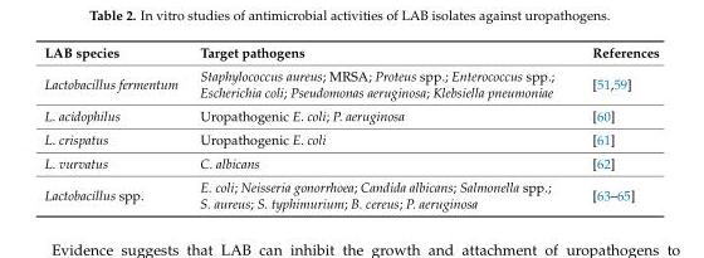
<table><thead><tr><td>LAB species</td><td>Target pathogens</td><td>References</td></tr></thead><tbody><tr><td>Lactobacillus fermentum</td><td>Staphylococcus aureus; MRSA; Proteus spp.; Enterococcus spp.; Escherichia coli; Pseudomonas aeruginosa; Klebsiella pneumoniae</td><td>[51,59]</td></tr><tr><td>L. acidophilus</td><td>Uropathogenic E. coli; P. aeruginosa</td><td>[60]</td></tr><tr><td>L. crispatus</td><td>Uropathogenic E. coli</td><td>[61]</td></tr><tr><td>L. vurvatus</td><td>C. albicans</td><td>[62]</td></tr><tr><td>Lactobacillus spp.</td><td>E. coli; Neisseria gonorrhoea; Candida albicans; Salmonella spp.; S. aureus; S. typhimurium; B. cereus; P. aeruginosa</td><td>[63–65]</td></tr></tbody></table>